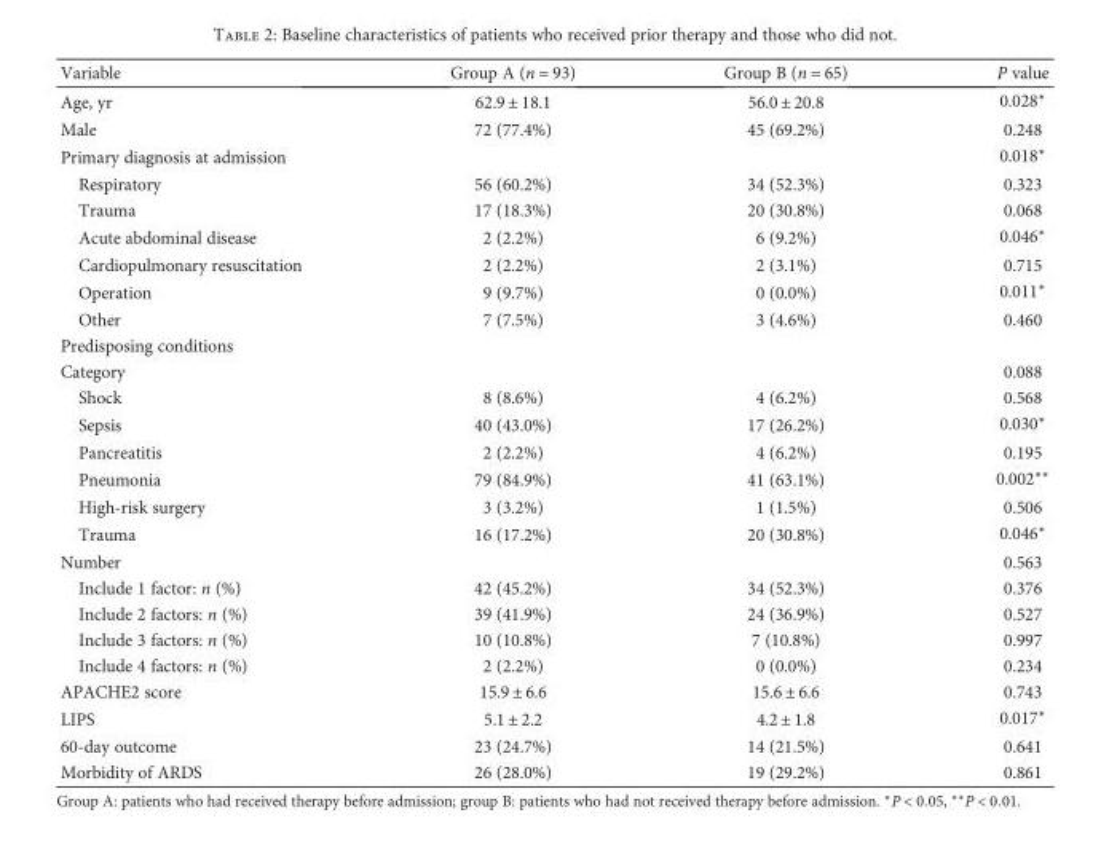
<table><thead><tr><td>Variable</td><td>Group A (n = 93)</td><td>Group B (n = 65)</td><td>P value</td></tr></thead><tbody><tr><td>Age, yr</td><td>62.9 ± 18.1</td><td>56.0 ± 20.8</td><td>0.028∗</td></tr><tr><td>Male</td><td>72 (77.4%)</td><td>45 (69.2%)</td><td>0.248</td></tr><tr><td>Primary diagnosis at admission</td><td></td><td></td><td>0.018∗</td></tr><tr><td>Respiratory</td><td>56 (60.2%)</td><td>34 (52.3%)</td><td>0.323</td></tr><tr><td>Trauma</td><td>17 (18.3%)</td><td>20 (30.8%)</td><td>0.068</td></tr><tr><td>Acute abdominal disease</td><td>2 (2.2%)</td><td>6 (9.2%)</td><td>0.046∗</td></tr><tr><td>Cardiopulmonary resuscitation</td><td>2 (2.2%)</td><td>2 (3.1%)</td><td>0.715</td></tr><tr><td>Operation</td><td>9 (9.7%)</td><td>0 (0.0%)</td><td>0.011∗</td></tr><tr><td>Other</td><td>7 (7.5%)</td><td>3 (4.6%)</td><td>0.460</td></tr><tr><td colspan="4">Predisposing conditions</td></tr><tr><td>Category</td><td></td><td></td><td>0.088</td></tr><tr><td>Shock</td><td>8 (8.6%)</td><td>4 (6.2%)</td><td>0.568</td></tr><tr><td>Sepsis</td><td>40 (43.0%)</td><td>17 (26.2%)</td><td>0.030∗</td></tr><tr><td>Pancreatitis</td><td>2 (2.2%)</td><td>4 (6.2%)</td><td>0.195</td></tr><tr><td>Pneumonia</td><td>79 (84.9%)</td><td>41 (63.1%)</td><td>0.002∗∗</td></tr><tr><td>High-risk surgery</td><td>3 (3.2%)</td><td>1 (1.5%)</td><td>0.506</td></tr><tr><td>Trauma</td><td>16 (17.2%)</td><td>20 (30.8%)</td><td>0.046∗</td></tr><tr><td>Number</td><td></td><td></td><td>0.563</td></tr><tr><td>Include 1 factor: n (%)</td><td>42 (45.2%)</td><td>34 (52.3%)</td><td>0.376</td></tr><tr><td>Include 2 factors: n (%)</td><td>39 (41.9%)</td><td>24 (36.9%)</td><td>0.527</td></tr><tr><td>Include 3 factors: n (%)</td><td>10 (10.8%)</td><td>7 (10.8%)</td><td>0.997</td></tr><tr><td>Include 4 factors: n (%)</td><td>2 (2.2%)</td><td>0 (0.0%)</td><td>0.234</td></tr><tr><td>APACHE2 score</td><td>15.9 ± 6.6</td><td>15.6 ± 6.6</td><td>0.743</td></tr><tr><td>LIPS</td><td>5.1 ± 2.2</td><td>4.2 ± 1.8</td><td>0.017∗</td></tr><tr><td>60-day outcome</td><td>23 (24.7%)</td><td>14 (21.5%)</td><td>0.641</td></tr><tr><td>Morbidity of ARDS</td><td>26 (28.0%)</td><td>19 (29.2%)</td><td>0.861</td></tr></tbody></table>